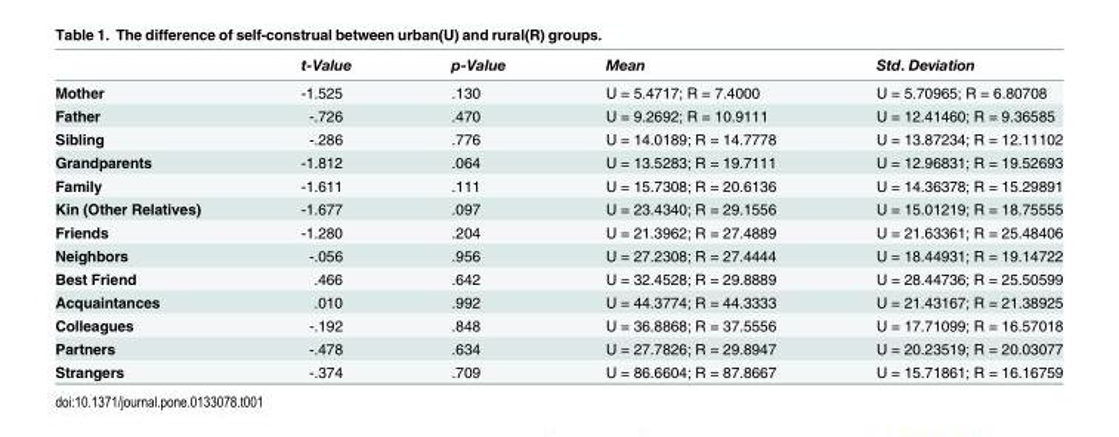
<table><thead><tr><td></td><td>t-Value</td><td>p-Value</td><td>Mean</td><td>Std. Deviation</td></tr></thead><tbody><tr><td>Mother</td><td>-1.525</td><td>.130</td><td>U = 5.4717; R = 7.4000</td><td>U = 5.70965; R = 6.80708</td></tr><tr><td>Father</td><td>-.726</td><td>.470</td><td>U = 9.2692; R = 10.9111</td><td>U = 12.41460; R = 9.36585</td></tr><tr><td>Sibling</td><td>-.286</td><td>.776</td><td>U = 14.0189; R = 14.7778</td><td>U = 13.87234; R = 12.11102</td></tr><tr><td>Grandparents</td><td>-1.812</td><td>.064</td><td>U = 13.5283; R = 19.7111</td><td>U = 12.96831; R = 19.52693</td></tr><tr><td>Family</td><td>-1.611</td><td>.111</td><td>U = 15.7308; R = 20.6136</td><td>U = 14.36378; R = 15.29891</td></tr><tr><td>Kin (Other Relatives)</td><td>-1.677</td><td>.097</td><td>U = 23.4340; R = 29.1556</td><td>U = 15.01219; R = 18.75555</td></tr><tr><td>Friends</td><td>-1.280</td><td>.204</td><td>U = 21.3962; R = 27.4889</td><td>U = 21.63361; R = 25.48406</td></tr><tr><td>Neighbors</td><td>-.056</td><td>.956</td><td>U = 27.2308; R = 27.4444</td><td>U = 18.44931; R = 19.14722</td></tr><tr><td>Best Friend</td><td>.466</td><td>.642</td><td>U = 32.4528; R = 29.8889</td><td>U = 28.44736; R = 25.50599</td></tr><tr><td>Acquaintances</td><td>.010</td><td>.992</td><td>U = 44.3774; R = 44.3333</td><td>U = 21.43167; R = 21.38925</td></tr><tr><td>Colleagues</td><td>-.192</td><td>.848</td><td>U = 36.8868; R = 37.5556</td><td>U = 17.71099; R = 16.57018</td></tr><tr><td>Partners</td><td>-.478</td><td>.634</td><td>U = 27.7826; R = 29.8947</td><td>U = 20.23519; R = 20.03077</td></tr><tr><td>Strangers</td><td>-.374</td><td>.709</td><td>U = 86.6604; R = 87.8667</td><td>U = 15.71861; R = 16.16759</td></tr></tbody></table>